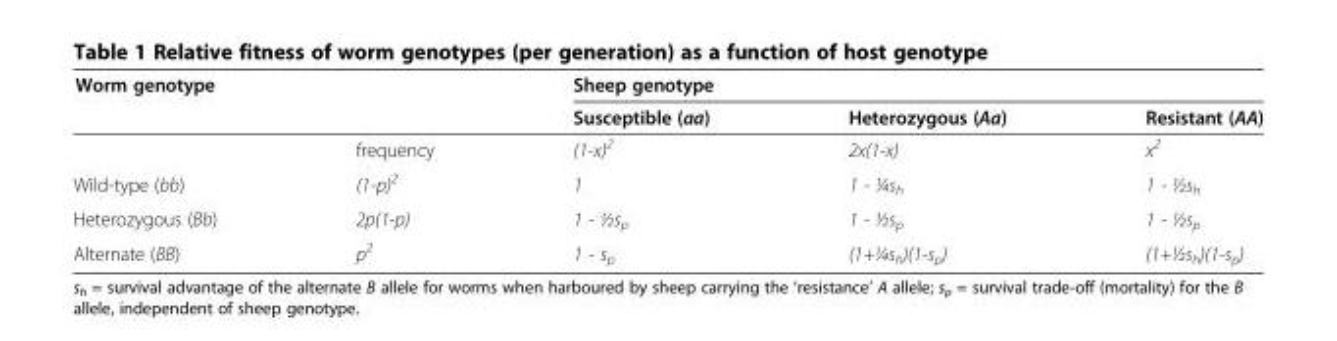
<table><thead><tr><td rowspan="2">Worm genotype</td><td rowspan="2"></td><td colspan="3">Sheep genotype</td></tr><tr><td>Susceptible (aa)</td><td>Heterozygous (Aa)</td><td>Resistant (AA)</td></tr></thead><tbody><tr><td></td><td>frequency</td><td>(1-x)<sup>2</sup></td><td>2x(1-x)</td><td>x<sup>2</sup></td></tr><tr><td>Wild-type (bb)</td><td>(1-p)<sup>2</sup></td><td>1</td><td>1 - ¼s<sub>h</sub></td><td>1 - ½s<sub>h</sub></td></tr><tr><td>Heterozygous (Bb)</td><td>2p(1-p)</td><td>1 - ½s<sub>p</sub></td><td>1 - ½s<sub>p</sub></td><td>1 - ½s<sub>p</sub></td></tr><tr><td>Alternate (BB)</td><td>p<sup>2</sup></td><td>1 - s<sub>p</sub></td><td>(1+¼s<sub>h</sub>)(1-s<sub>p</sub>)</td><td>(1+½s<sub>h</sub>)(1-s<sub>p</sub>)</td></tr></tbody></table>